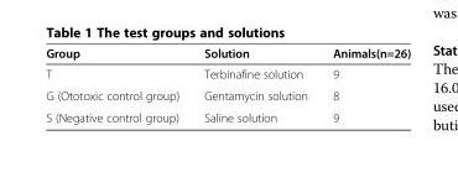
<table><thead><tr><td>Group</td><td>Solution</td><td>Animals(n=26)</td></tr></thead><tbody><tr><td>T</td><td>Terbinafine solution</td><td>9</td></tr><tr><td>G (Ototoxic control group)</td><td>Gentamycin solution</td><td>8</td></tr><tr><td>S (Negative control group)</td><td>Saline solution</td><td>9</td></tr></tbody></table>